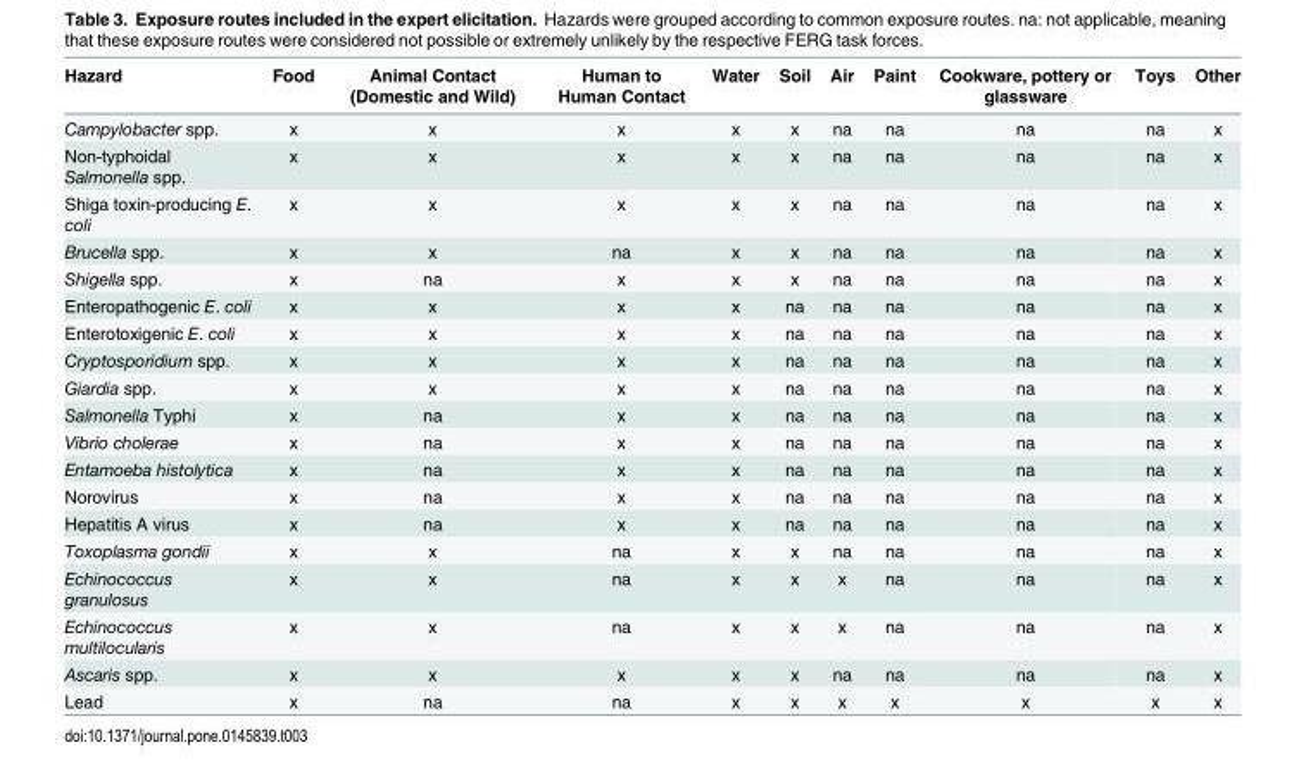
<table><thead><tr><td>Hazard</td><td>Food</td><td>Animal Contact (Domestic and Wild)</td><td>Human to Human Contact</td><td>Water</td><td>Soil</td><td>Air</td><td>Paint</td><td>Cookware, pottery or glassware</td><td>Toys</td><td>Other</td></tr></thead><tbody><tr><td>Campylobacter spp.</td><td>x</td><td>x</td><td>x</td><td>x</td><td>x</td><td>na</td><td>na</td><td>na</td><td>na</td><td>x</td></tr><tr><td>Non-typhoidal Salmonella spp.</td><td>x</td><td>x</td><td>x</td><td>x</td><td>x</td><td>na</td><td>na</td><td>na</td><td>na</td><td>x</td></tr><tr><td>Shiga toxin-producing E. coli</td><td>x</td><td>x</td><td>x</td><td>x</td><td>x</td><td>na</td><td>na</td><td>na</td><td>na</td><td>x</td></tr><tr><td>Brucella spp.</td><td>x</td><td>x</td><td>na</td><td>x</td><td>x</td><td>na</td><td>na</td><td>na</td><td>na</td><td>x</td></tr><tr><td>Shigella spp.</td><td>x</td><td>na</td><td>x</td><td>x</td><td>x</td><td>na</td><td>na</td><td>na</td><td>na</td><td>x</td></tr><tr><td>Enteropathogenic E. coli</td><td>x</td><td>x</td><td>x</td><td>x</td><td>na</td><td>na</td><td>na</td><td>na</td><td>na</td><td>x</td></tr><tr><td>Enterotoxigenic E. coli</td><td>x</td><td>x</td><td>x</td><td>x</td><td>na</td><td>na</td><td>na</td><td>na</td><td>na</td><td>x</td></tr><tr><td>Cryptosporidium spp.</td><td>x</td><td>x</td><td>x</td><td>x</td><td>na</td><td>na</td><td>na</td><td>na</td><td>na</td><td>x</td></tr><tr><td>Giardia spp.</td><td>x</td><td>x</td><td>x</td><td>x</td><td>na</td><td>na</td><td>na</td><td>na</td><td>na</td><td>x</td></tr><tr><td>Salmonella Typhi</td><td>x</td><td>na</td><td>x</td><td>x</td><td>na</td><td>na</td><td>na</td><td>na</td><td>na</td><td>x</td></tr><tr><td>Vibrio cholerae</td><td>x</td><td>na</td><td>x</td><td>x</td><td>na</td><td>na</td><td>na</td><td>na</td><td>na</td><td>x</td></tr><tr><td>Entamoeba histolytica</td><td>x</td><td>na</td><td>x</td><td>x</td><td>na</td><td>na</td><td>na</td><td>na</td><td>na</td><td>x</td></tr><tr><td>Norovirus</td><td>x</td><td>na</td><td>x</td><td>x</td><td>na</td><td>na</td><td>na</td><td>na</td><td>na</td><td>x</td></tr><tr><td>Hepatitis A virus</td><td>x</td><td>na</td><td>x</td><td>x</td><td>na</td><td>na</td><td>na</td><td>na</td><td>na</td><td>x</td></tr><tr><td>Toxoplasma gondii</td><td>x</td><td>x</td><td>na</td><td>x</td><td>x</td><td>na</td><td>na</td><td>na</td><td>na</td><td>x</td></tr><tr><td>Echinococcus granulosus</td><td>x</td><td>x</td><td>na</td><td>x</td><td>x</td><td>x</td><td>na</td><td>na</td><td>na</td><td>x</td></tr><tr><td>Echinococcus multilocularis</td><td>x</td><td>x</td><td>na</td><td>x</td><td>x</td><td>x</td><td>na</td><td>na</td><td>na</td><td>x</td></tr><tr><td>Ascaris spp.</td><td>x</td><td>x</td><td>x</td><td>x</td><td>x</td><td>na</td><td>na</td><td>na</td><td>na</td><td>x</td></tr><tr><td>Lead</td><td>x</td><td>na</td><td>na</td><td>x</td><td>x</td><td>x</td><td>x</td><td>x</td><td>x</td><td>x</td></tr></tbody></table>